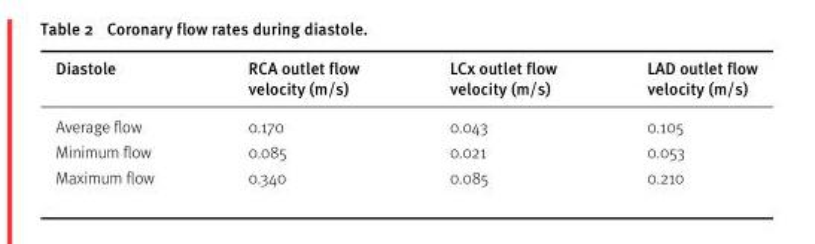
<table><thead><tr><td>Diastole</td><td>RCA outlet flow velocity (m/s)</td><td>LCx outlet flow velocity (m/s)</td><td>LAD outlet flow velocity (m/s)</td></tr></thead><tbody><tr><td>Average flow</td><td>0.170</td><td>0.043</td><td>0.105</td></tr><tr><td>Minimum flow</td><td>0.085</td><td>0.021</td><td>0.053</td></tr><tr><td>Maximum flow</td><td>0.340</td><td>0.085</td><td>0.210</td></tr></tbody></table>